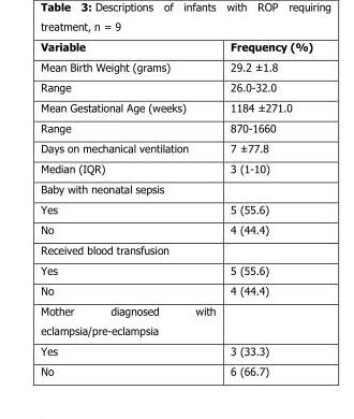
<table><thead><tr><td>Variable</td><td>Frequency (%)</td></tr></thead><tbody><tr><td>Mean Birth Weight (grams)</td><td>29.2 ±1.8</td></tr><tr><td>Range</td><td>26.0-32.0</td></tr><tr><td>Mean Gestational Age (weeks)</td><td>1184 ±271.0</td></tr><tr><td>Range</td><td>870-1660</td></tr><tr><td>Days on mechanical ventilation</td><td>7 ±77.8</td></tr><tr><td>Median (IQR)</td><td>3 (1-10)</td></tr><tr><td colspan="2">Baby with neonatal sepsis</td></tr><tr><td>Yes</td><td>5 (55.6)</td></tr><tr><td>No</td><td>4 (44.4)</td></tr><tr><td colspan="2">Received blood transfusion</td></tr><tr><td>Yes</td><td>5 (55.6)</td></tr><tr><td>No</td><td>4 (44.4)</td></tr><tr><td colspan="2">Mother diagnosed with eclampsia/pre-eclampsia</td></tr><tr><td>Yes</td><td>3 (33.3)</td></tr><tr><td>No</td><td>6 (66.7)</td></tr></tbody></table>